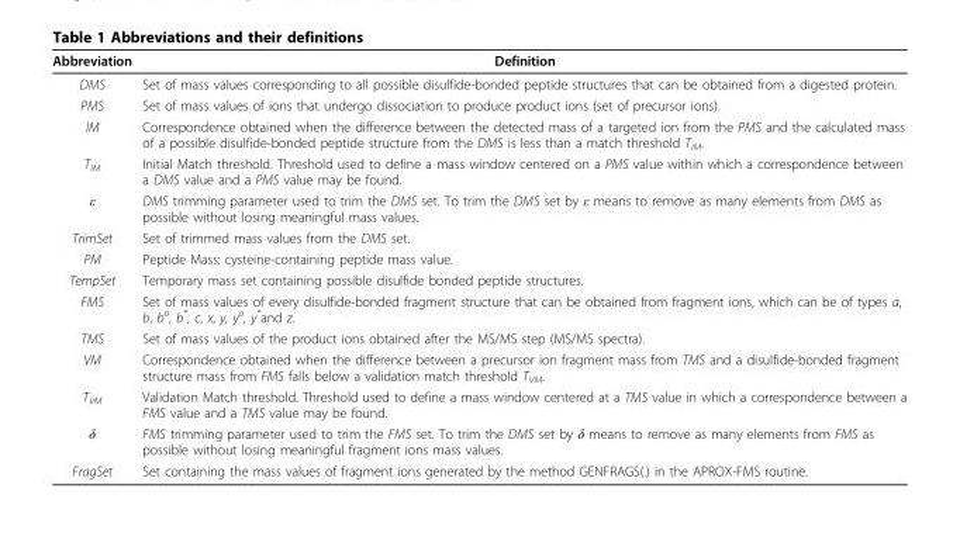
<table><thead><tr><td>Abbreviation</td><td>Definition</td></tr></thead><tbody><tr><td>DMS</td><td>Set of mass values corresponding to all possible disulfide-bonded peptide structures that can be obtained from a digested protein.</td></tr><tr><td>PMS</td><td>Set of mass values of ions that undergo dissociation to produce product ions (set of precursor ions).</td></tr><tr><td>IM</td><td>Correspondence obtained when the difference between the detected mass of a targeted ion from the PMS and the calculated mass of a possible disulfide-bonded peptide structure from the DMS is less than a match threshold T<sub>IM</sub>.</td></tr><tr><td>T<sub>IM</sub></td><td>Initial Match threshold. Threshold used to define a mass window centered on a PMS value within which a correspondence between a DMS value and a PMS value may be found.</td></tr><tr><td>ε</td><td>DMS trimming parameter used to trim the DMS set. To trim the DMS set by ε means to remove as many elements from DMS as possible without losing meaningful mass values.</td></tr><tr><td>TrimSet</td><td>Set of trimmed mass values from the DMS set.</td></tr><tr><td>PM</td><td>Peptide Mass: cysteine-containing peptide mass value.</td></tr><tr><td>TempSet</td><td>Temporary mass set containing possible disulfide bonded peptide structures.</td></tr><tr><td>FMS</td><td>Set of mass values of every disulfide-bonded fragment structure that can be obtained from fragment ions, which can be of types a, b, b<sup>o</sup>, b*, c, x, y, y<sup>o</sup>, y*and z.</td></tr><tr><td>TMS</td><td>Set of mass values of the product ions obtained after the MS/MS step (MS/MS spectra).</td></tr><tr><td>VM</td><td>Correspondence obtained when the difference between a precursor ion fragment mass from TMS and a disulfide-bonded fragment structure mass from FMS falls below a validation match threshold T<sub>VM</sub>.</td></tr><tr><td>T<sub>VM</sub></td><td>Validation Match threshold. Threshold used to define a mass window centered at a TMS value in which a correspondence between a FMS value and a TMS value may be found.</td></tr><tr><td>δ</td><td>FMS trimming parameter used to trim the FMS set. To trim the DMS set by δ means to remove as many elements from FMS as possible without losing meaningful fragment ions mass values.</td></tr><tr><td>FragSet</td><td>Set containing the mass values of fragment ions generated by the method GENFRAGS(.) in the APROX-FMS routine.</td></tr></tbody></table>